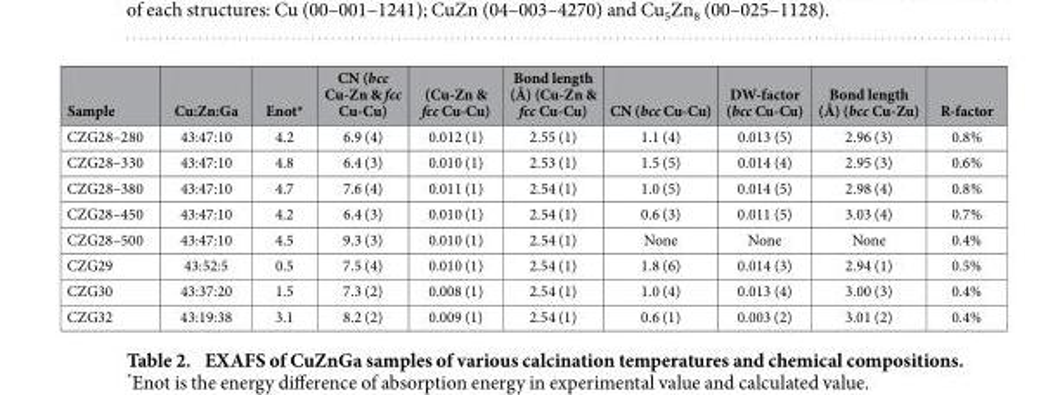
<table><thead><tr><td>Sample</td><td>Cu:Zn:Ga</td><td>Enot*</td><td>CN (bcc Cu-Zn &amp; fcc Cu-Cu)</td><td>(Cu-Zn &amp; fcc Cu-Cu)</td><td>Bond length (Å) (Cu-Zn &amp; fcc Cu-Cu)</td><td>CN (bcc Cu-Cu)</td><td>DW-factor (bcc Cu-Cu)</td><td>Bond length (Å) (bcc Cu-Zu)</td><td>R-factor</td></tr></thead><tbody><tr><td>CZG28–280</td><td>43:47:10</td><td>4.2</td><td>6.9 (4)</td><td>0.012 (1)</td><td>2.55 (1)</td><td>1.1 (4)</td><td>0.013 (5)</td><td>2.96 (3)</td><td>0.8%</td></tr><tr><td>CZG28–330</td><td>43:47:10</td><td>4.8</td><td>6.4 (3)</td><td>0.010 (1)</td><td>2.53 (1)</td><td>1.5 (5)</td><td>0.014 (4)</td><td>2.95 (3)</td><td>0.6%</td></tr><tr><td>CZG28–380</td><td>43:47:10</td><td>4.7</td><td>7.6 (4)</td><td>0.011 (1)</td><td>2.54 (1)</td><td>1.0 (5)</td><td>0.014 (5)</td><td>2.98 (4)</td><td>0.8%</td></tr><tr><td>CZG28–450</td><td>43:47:10</td><td>4.2</td><td>6.4 (3)</td><td>0.010 (1)</td><td>2.54 (1)</td><td>0.6 (3)</td><td>0.011 (5)</td><td>3.03 (4)</td><td>0.7%</td></tr><tr><td>CZG28–500</td><td>43:47:10</td><td>4.5</td><td>9.3 (3)</td><td>0.010 (1)</td><td>2.54 (1)</td><td>None</td><td>None</td><td>None</td><td>0.4%</td></tr><tr><td>CZG29</td><td>43:52:5</td><td>0.5</td><td>7.5 (4)</td><td>0.010 (1)</td><td>2.54 (1)</td><td>1.8 (6)</td><td>0.014 (3)</td><td>2.94 (1)</td><td>0.5%</td></tr><tr><td>CZG30</td><td>43:37:20</td><td>1.5</td><td>7.3 (2)</td><td>0.008 (1)</td><td>2.54 (1)</td><td>1.0 (4)</td><td>0.013 (4)</td><td>3.00 (3)</td><td>0.4%</td></tr><tr><td>CZG32</td><td>43:19:38</td><td>3.1</td><td>8.2 (2)</td><td>0.009 (1)</td><td>2.54 (1)</td><td>0.6 (1)</td><td>0.003 (2)</td><td>3.01 (2)</td><td>0.4%</td></tr></tbody></table>